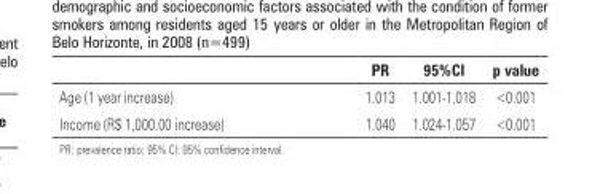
<table><thead><tr><td></td><td>PR</td><td>95%ci</td><td>p value</td></tr></thead><tbody><tr><td>Age (1 year increase)</td><td>1.013</td><td>1.001-1.018</td><td>&lt;0.001</td></tr><tr><td>Income (R$ 1,000.00 increase)</td><td>1.040</td><td>1.024-1.057</td><td>&lt;0.001</td></tr></tbody></table>